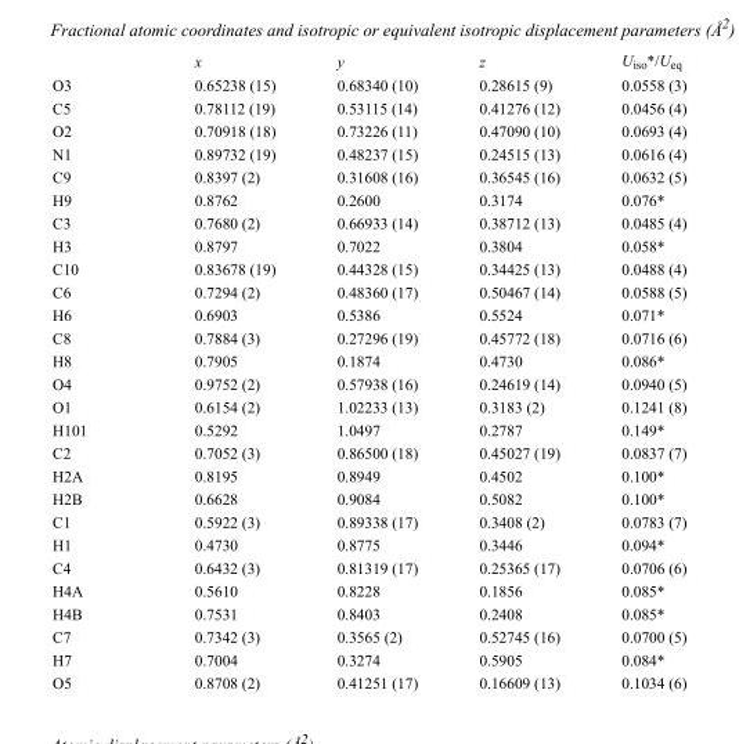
<table><thead><tr><td></td><td>x</td><td>y</td><td>z</td><td>U<sub>iso</sub>*/U<sub>eq</sub></td></tr></thead><tbody><tr><td>O3</td><td>0.65238 (15)</td><td>0.68340 (10)</td><td>0.28615 (9)</td><td>0.0558 (3)</td></tr><tr><td>C5</td><td>0.78112 (19)</td><td>0.53115 (14)</td><td>0.41276 (12)</td><td>0.0456 (4)</td></tr><tr><td>O2</td><td>0.70918 (18)</td><td>0.73226 (11)</td><td>0.47090 (10)</td><td>0.0693 (4)</td></tr><tr><td>N1</td><td>0.89732 (19)</td><td>0.48237 (15)</td><td>0.24515 (13)</td><td>0.0616 (4)</td></tr><tr><td>C9</td><td>0.8397 (2)</td><td>0.31608 (16)</td><td>0.36545 (16)</td><td>0.0632 (5)</td></tr><tr><td>H9</td><td>0.8762</td><td>0.2600</td><td>0.3174</td><td>0.076*</td></tr><tr><td>C3</td><td>0.7680 (2)</td><td>0.66933 (14)</td><td>0.38712 (13)</td><td>0.0485 (4)</td></tr><tr><td>H3</td><td>0.8797</td><td>0.7022</td><td>0.3804</td><td>0.058*</td></tr><tr><td>C10</td><td>0.83678 (19)</td><td>0.44328 (15)</td><td>0.34425 (13)</td><td>0.0488 (4)</td></tr><tr><td>C6</td><td>0.7294 (2)</td><td>0.48360 (17)</td><td>0.50467 (14)</td><td>0.0588 (5)</td></tr><tr><td>H6</td><td>0.6903</td><td>0.5386</td><td>0.5524</td><td>0.071*</td></tr><tr><td>C8</td><td>0.7884 (3)</td><td>0.27296 (19)</td><td>0.45772 (18)</td><td>0.0716 (6)</td></tr><tr><td>H8</td><td>0.7905</td><td>0.1874</td><td>0.4730</td><td>0.086*</td></tr><tr><td>O4</td><td>0.9752 (2)</td><td>0.57938 (16)</td><td>0.24619 (14)</td><td>0.0940 (5)</td></tr><tr><td>O1</td><td>0.6154 (2)</td><td>1.02233 (13)</td><td>0.3183 (2)</td><td>0.1241 (8)</td></tr><tr><td>H101</td><td>0.5292</td><td>1.0497</td><td>0.2787</td><td>0.149*</td></tr><tr><td>C2</td><td>0.7052 (3)</td><td>0.86500 (18)</td><td>0.45027 (19)</td><td>0.0837 (7)</td></tr><tr><td>H2A</td><td>0.8195</td><td>0.8949</td><td>0.4502</td><td>0.100*</td></tr><tr><td>H2B</td><td>0.6628</td><td>0.9084</td><td>0.5082</td><td>0.100*</td></tr><tr><td>C1</td><td>0.5922 (3)</td><td>0.89338 (17)</td><td>0.3408 (2)</td><td>0.0783 (7)</td></tr><tr><td>H1</td><td>0.4730</td><td>0.8775</td><td>0.3446</td><td>0.094*</td></tr><tr><td>C4</td><td>0.6432 (3)</td><td>0.81319 (17)</td><td>0.25365 (17)</td><td>0.0706 (6)</td></tr><tr><td>H4A</td><td>0.5610</td><td>0.8228</td><td>0.1856</td><td>0.085*</td></tr><tr><td>H4B</td><td>0.7531</td><td>0.8403</td><td>0.2408</td><td>0.085*</td></tr><tr><td>C7</td><td>0.7342 (3)</td><td>0.3565 (2)</td><td>0.52745 (16)</td><td>0.0700 (5)</td></tr><tr><td>H7</td><td>0.7004</td><td>0.3274</td><td>0.5905</td><td>0.084*</td></tr><tr><td>O5</td><td>0.8708 (2)</td><td>0.41251 (17)</td><td>0.16609 (13)</td><td>0.1034 (6)</td></tr></tbody></table>